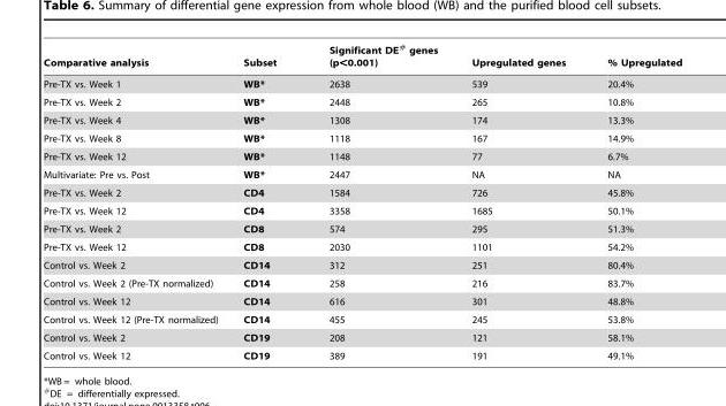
<table><thead><tr><td>Comparative analysis</td><td>Subset</td><td>Significant DE# genes (p&lt;0.001)</td><td>Upregulated genes</td><td>% Upregulated</td></tr></thead><tbody><tr><td>Pre-TX vs. Week 1</td><td>WB*</td><td>2638</td><td>539</td><td>20.4%</td></tr><tr><td>Pre-TX vs. Week 2</td><td>WB*</td><td>2448</td><td>265</td><td>10.8%</td></tr><tr><td>Pre-TX vs. Week 4</td><td>WB*</td><td>1308</td><td>174</td><td>13.3%</td></tr><tr><td>Pre-TX vs. Week 8</td><td>WB*</td><td>1118</td><td>167</td><td>14.9%</td></tr><tr><td>Pre-TX vs. Week 12</td><td>WB*</td><td>1148</td><td>77</td><td>6.7%</td></tr><tr><td>Multivariate: Pre vs. Post</td><td>WB*</td><td>2447</td><td>NA</td><td>NA</td></tr><tr><td>Pre-TX vs. Week 2</td><td>CD4</td><td>1584</td><td>726</td><td>45.8%</td></tr><tr><td>Pre-TX vs. Week 12</td><td>CD4</td><td>3358</td><td>1685</td><td>50.1%</td></tr><tr><td>Pre-TX vs. Week 2</td><td>CD8</td><td>574</td><td>295</td><td>51.3%</td></tr><tr><td>Pre-TX vs. Week 12</td><td>CD8</td><td>2030</td><td>1101</td><td>54.2%</td></tr><tr><td>Control vs. Week 2</td><td>CD14</td><td>312</td><td>251</td><td>80.4%</td></tr><tr><td>Control vs. Week 2 (Pre-TX normalized)</td><td>CD14</td><td>258</td><td>216</td><td>83.7%</td></tr><tr><td>Control vs. Week 12</td><td>CD14</td><td>616</td><td>301</td><td>48.8%</td></tr><tr><td>Control vs. Week 12 (Pre-TX normalized)</td><td>CD14</td><td>455</td><td>245</td><td>53.8%</td></tr><tr><td>Control vs. Week 2</td><td>CD19</td><td>208</td><td>121</td><td>58.1%</td></tr><tr><td>Control vs. Week 12</td><td>CD19</td><td>389</td><td>191</td><td>49.1%</td></tr></tbody></table>